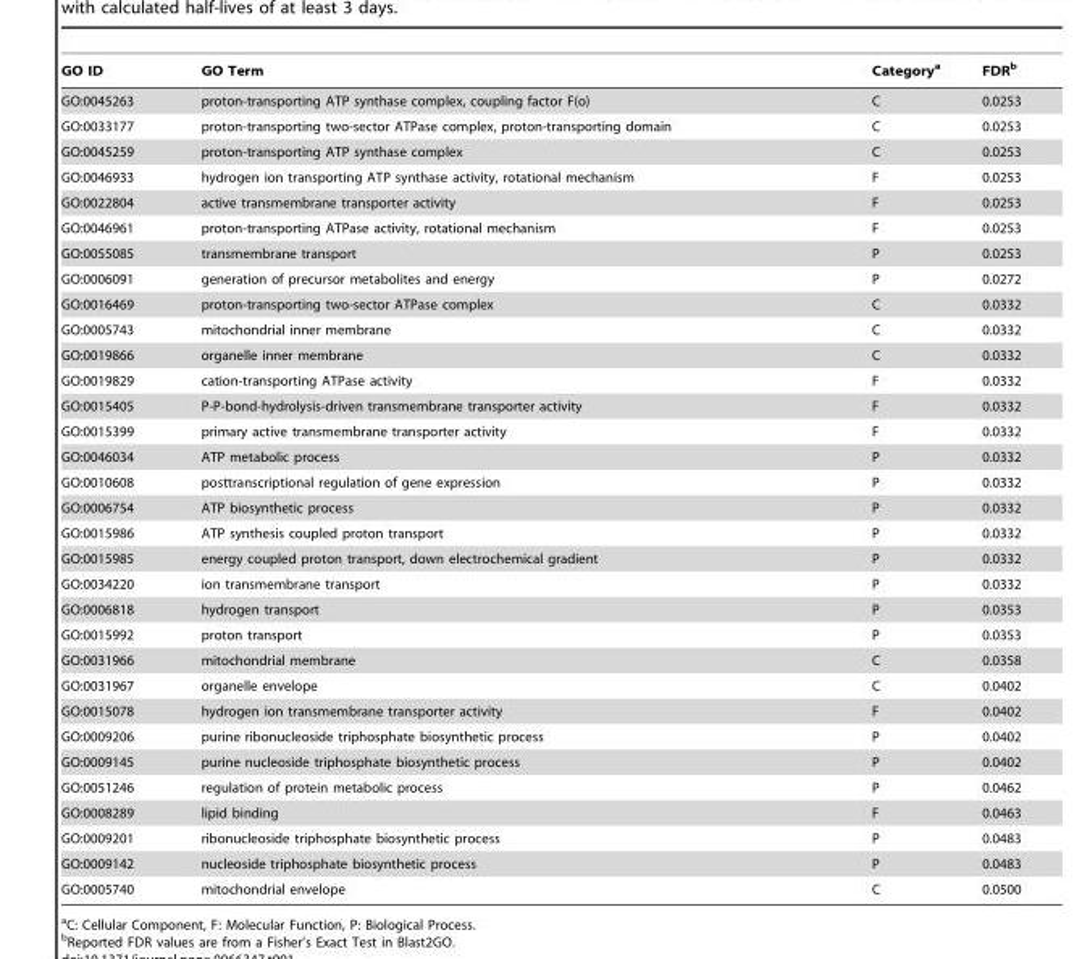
<table><thead><tr><td>GO ID</td><td>GO Term</td><td>Category<sup>a</sup></td><td>FDR<sup>b</sup></td></tr></thead><tbody><tr><td>GO:0045263</td><td>proton-transporting ATP synthase complex, coupling factor F(o)</td><td>C</td><td>0.0253</td></tr><tr><td>GO:0033177</td><td>proton-transporting two-sector ATPase complex, proton-transporting domain</td><td>C</td><td>0.0253</td></tr><tr><td>GO:0045259</td><td>proton-transporting ATP synthase complex</td><td>C</td><td>0.0253</td></tr><tr><td>GO:0046933</td><td>hydrogen ion transporting ATP synthase activity, rotational mechanism</td><td>F</td><td>0.0253</td></tr><tr><td>GO:0022804</td><td>active transmembrane transporter activity</td><td>F</td><td>0.0253</td></tr><tr><td>GO:0046961</td><td>proton-transporting ATPase activity, rotational mechanism</td><td>F</td><td>0.0253</td></tr><tr><td>GO:0055085</td><td>transmembrane transport</td><td>P</td><td>0.0253</td></tr><tr><td>GO:0006091</td><td>generation of precursor metabolites and energy</td><td>P</td><td>0.0272</td></tr><tr><td>GO:0016469</td><td>proton-transporting two-sector ATPase complex</td><td>C</td><td>0.0332</td></tr><tr><td>GO:0005743</td><td>mitochondrial inner membrane</td><td>C</td><td>0.0332</td></tr><tr><td>GO:0019866</td><td>organelle inner membrane</td><td>C</td><td>0.0332</td></tr><tr><td>GO:0019829</td><td>cation-transporting ATPase activity</td><td>F</td><td>0.0332</td></tr><tr><td>GO:0015405</td><td>P-P-bond-hydrolysis-driven transmembrane transporter activity</td><td>F</td><td>0.0332</td></tr><tr><td>GO:0015399</td><td>primary active transmembrane transporter activity</td><td>F</td><td>0.0332</td></tr><tr><td>GO:0046034</td><td>ATP metabolic process</td><td>P</td><td>0.0332</td></tr><tr><td>GO:0010608</td><td>posttranscriptional regulation of gene expression</td><td>P</td><td>0.0332</td></tr><tr><td>GO:0006754</td><td>ATP biosynthetic process</td><td>P</td><td>0.0332</td></tr><tr><td>GO:0015986</td><td>ATP synthesis coupled proton transport</td><td>P</td><td>0.0332</td></tr><tr><td>GO:0015985</td><td>energy coupled proton transport, down electrochemical gradient</td><td>P</td><td>0.0332</td></tr><tr><td>GO:0034220</td><td>ion transmembrane transport</td><td>P</td><td>0.0332</td></tr><tr><td>GO:0006818</td><td>hydrogen transport</td><td>P</td><td>0.0353</td></tr><tr><td>GO:0015992</td><td>proton transport</td><td>P</td><td>0.0353</td></tr><tr><td>GO:0031966</td><td>mitochondrial membrane</td><td>C</td><td>0.0358</td></tr><tr><td>GO:0031967</td><td>organelle envelope</td><td>C</td><td>0.0402</td></tr><tr><td>GO:0015078</td><td>hydrogen ion transmembrane transporter activity</td><td>F</td><td>0.0402</td></tr><tr><td>GO:0009206</td><td>purine ribonucleoside triphosphate biosynthetic process</td><td>P</td><td>0.0402</td></tr><tr><td>GO:0009145</td><td>purine nucleoside triphosphate biosynthetic process</td><td>P</td><td>0.0402</td></tr><tr><td>GO:0051246</td><td>regulation of protein metabolic process</td><td>P</td><td>0.0462</td></tr><tr><td>GO:0008289</td><td>lipid binding</td><td>F</td><td>0.0463</td></tr><tr><td>GO:0009201</td><td>ribonucleoside triphosphate biosynthetic process</td><td>P</td><td>0.0483</td></tr><tr><td>GO:0009142</td><td>nucleoside triphosphate biosynthetic process</td><td>P</td><td>0.0483</td></tr><tr><td>GO:0005740</td><td>mitochondrial envelope</td><td>C</td><td>0.0500</td></tr></tbody></table>